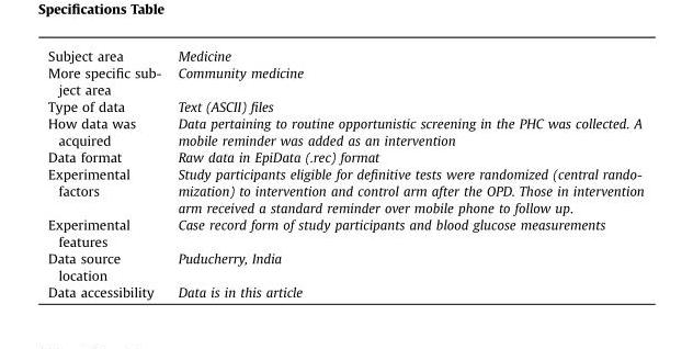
<table><tbody><tr><td>Subject area</td><td>Medicine</td></tr><tr><td>More specific sub- ject area</td><td>Community medicine</td></tr><tr><td>Type of data</td><td>Text (ASCII) files</td></tr><tr><td>How data was acquired</td><td>Data pertaining to routine opportunistic screening in the PHC was collected. A mobile reminder was added as an intervention</td></tr><tr><td>Data format</td><td>Raw data in EpiData (.rec) format</td></tr><tr><td>Experimental factors</td><td>Study participants eligible for definitive tests were randomized (central rando- mization) to intervention and control arm after the OPD. Those in intervention arm received a standard reminder over mobile phone to follow up.</td></tr><tr><td>Experimental features</td><td>Case record form of study participants and blood glucose measurements</td></tr><tr><td>Data source location</td><td>Puducherry, India</td></tr><tr><td>Data accessibility</td><td>Data is in this article</td></tr></tbody></table>